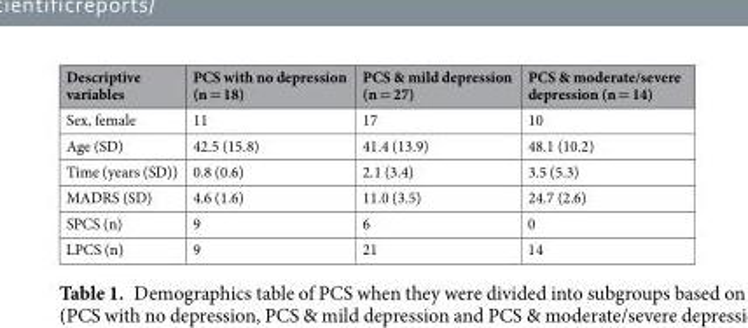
<table><thead><tr><td>Descriptive variables</td><td>PCS with no depression (n = 18)</td><td>PCS &amp; mild depression (n = 27)</td><td>PCS &amp; moderate/severe depression (n = 14)</td></tr></thead><tbody><tr><td>Sex, female</td><td>11</td><td>17</td><td>10</td></tr><tr><td>Age (SD)</td><td>42.5 (15.8)</td><td>41.4 (13.9)</td><td>48.1 (10.2)</td></tr><tr><td>Time (years (SD))</td><td>0.8 (0.6)</td><td>2.1 (3.4)</td><td>3.5 (5.3)</td></tr><tr><td>MADRS (SD)</td><td>4.6 (1.6)</td><td>11.0 (3.5)</td><td>24.7 (2.6)</td></tr><tr><td>SPCS (n)</td><td>9</td><td>6</td><td>0</td></tr><tr><td>LPCS (n)</td><td>9</td><td>21</td><td>14</td></tr></tbody></table>